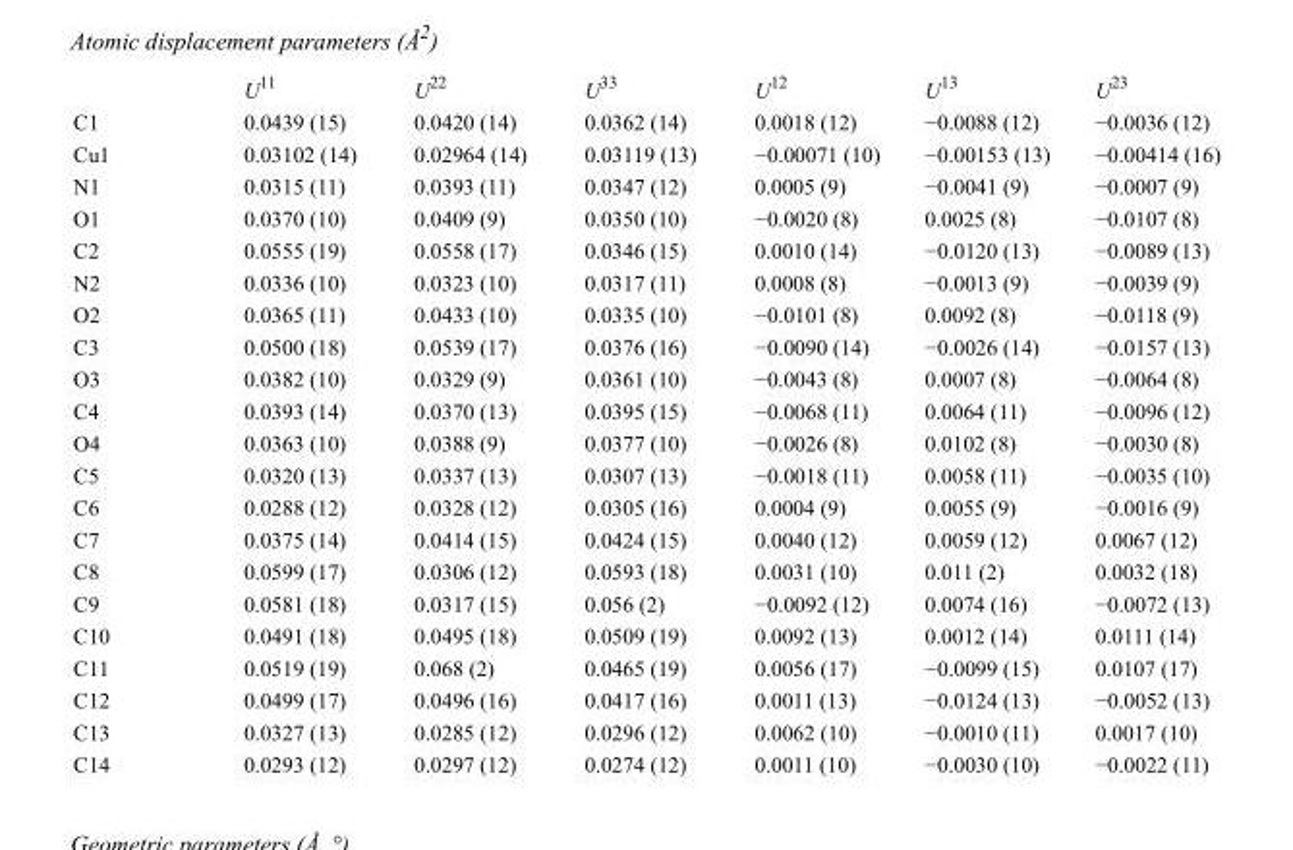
<table><thead><tr><td></td><td>U<sup>11</sup></td><td>U<sup>22</sup></td><td>U<sup>33</sup></td><td>U<sup>12</sup></td><td>U<sup>13</sup></td><td>U<sup>23</sup></td></tr></thead><tbody><tr><td>C1</td><td>0.0439 (15)</td><td>0.0420 (14)</td><td>0.0362 (14)</td><td>0.0018 (12)</td><td>−0.0088 (12)</td><td>−0.0036 (12)</td></tr><tr><td>Cu1</td><td>0.03102 (14)</td><td>0.02964 (14)</td><td>0.03119 (13)</td><td>−0.00071 (10)</td><td>−0.00153 (13)</td><td>−0.00414 (16)</td></tr><tr><td>N1</td><td>0.0315 (11)</td><td>0.0393 (11)</td><td>0.0347 (12)</td><td>0.0005 (9)</td><td>−0.0041 (9)</td><td>−0.0007 (9)</td></tr><tr><td>O1</td><td>0.0370 (10)</td><td>0.0409 (9)</td><td>0.0350 (10)</td><td>−0.0020 (8)</td><td>0.0025 (8)</td><td>−0.0107 (8)</td></tr><tr><td>C2</td><td>0.0555 (19)</td><td>0.0558 (17)</td><td>0.0346 (15)</td><td>0.0010 (14)</td><td>−0.0120 (13)</td><td>−0.0089 (13)</td></tr><tr><td>N2</td><td>0.0336 (10)</td><td>0.0323 (10)</td><td>0.0317 (11)</td><td>0.0008 (8)</td><td>−0.0013 (9)</td><td>−0.0039 (9)</td></tr><tr><td>O2</td><td>0.0365 (11)</td><td>0.0433 (10)</td><td>0.0335 (10)</td><td>−0.0101 (8)</td><td>0.0092 (8)</td><td>−0.0118 (9)</td></tr><tr><td>C3</td><td>0.0500 (18)</td><td>0.0539 (17)</td><td>0.0376 (16)</td><td>−0.0090 (14)</td><td>−0.0026 (14)</td><td>−0.0157 (13)</td></tr><tr><td>O3</td><td>0.0382 (10)</td><td>0.0329 (9)</td><td>0.0361 (10)</td><td>−0.0043 (8)</td><td>0.0007 (8)</td><td>−0.0064 (8)</td></tr><tr><td>C4</td><td>0.0393 (14)</td><td>0.0370 (13)</td><td>0.0395 (15)</td><td>−0.0068 (11)</td><td>0.0064 (11)</td><td>−0.0096 (12)</td></tr><tr><td>O4</td><td>0.0363 (10)</td><td>0.0388 (9)</td><td>0.0377 (10)</td><td>−0.0026 (8)</td><td>0.0102 (8)</td><td>−0.0030 (8)</td></tr><tr><td>C5</td><td>0.0320 (13)</td><td>0.0337 (13)</td><td>0.0307 (13)</td><td>−0.0018 (11)</td><td>0.0058 (11)</td><td>−0.0035 (10)</td></tr><tr><td>C6</td><td>0.0288 (12)</td><td>0.0328 (12)</td><td>0.0305 (16)</td><td>0.0004 (9)</td><td>0.0055 (9)</td><td>−0.0016 (9)</td></tr><tr><td>C7</td><td>0.0375 (14)</td><td>0.0414 (15)</td><td>0.0424 (15)</td><td>0.0040 (12)</td><td>0.0059 (12)</td><td>0.0067 (12)</td></tr><tr><td>C8</td><td>0.0599 (17)</td><td>0.0306 (12)</td><td>0.0593 (18)</td><td>0.0031 (10)</td><td>0.011 (2)</td><td>0.0032 (18)</td></tr><tr><td>C9</td><td>0.0581 (18)</td><td>0.0317 (15)</td><td>0.056 (2)</td><td>−0.0092 (12)</td><td>0.0074 (16)</td><td>−0.0072 (13)</td></tr><tr><td>C10</td><td>0.0491 (18)</td><td>0.0495 (18)</td><td>0.0509 (19)</td><td>0.0092 (13)</td><td>0.0012 (14)</td><td>0.0111 (14)</td></tr><tr><td>C11</td><td>0.0519 (19)</td><td>0.068 (2)</td><td>0.0465 (19)</td><td>0.0056 (17)</td><td>−0.0099 (15)</td><td>0.0107 (17)</td></tr><tr><td>C12</td><td>0.0499 (17)</td><td>0.0496 (16)</td><td>0.0417 (16)</td><td>0.0011 (13)</td><td>−0.0124 (13)</td><td>−0.0052 (13)</td></tr><tr><td>C13</td><td>0.0327 (13)</td><td>0.0285 (12)</td><td>0.0296 (12)</td><td>0.0062 (10)</td><td>−0.0010 (11)</td><td>0.0017 (10)</td></tr><tr><td>C14</td><td>0.0293 (12)</td><td>0.0297 (12)</td><td>0.0274 (12)</td><td>0.0011 (10)</td><td>−0.0030 (10)</td><td>−0.0022 (11)</td></tr></tbody></table>